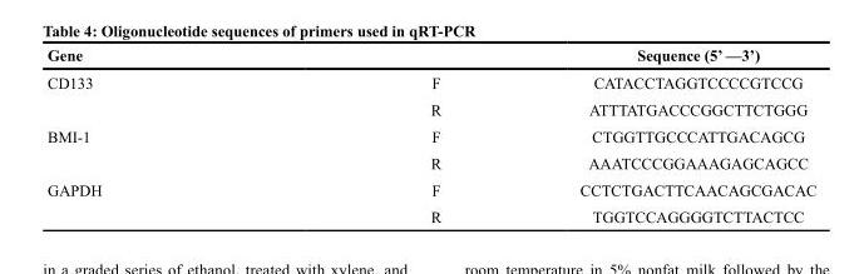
<table><thead><tr><td>Gene</td><td></td><td>Sequence (5’ —3’)</td></tr></thead><tbody><tr><td rowspan="2">CD133</td><td>F</td><td>CATACCTAGGTCCCCGTCCG</td></tr><tr><td>R</td><td>ATTTATGACCCGGCTTCTGGG</td></tr><tr><td rowspan="2">BMI-1</td><td>F</td><td>CTGGTTGCCCATTGACAGCG</td></tr><tr><td>R</td><td>AAATCCCGGAAAGAGCAGCC</td></tr><tr><td rowspan="2">GAPDH</td><td>F</td><td>CCTCTGACTTCAACAGCGACAC</td></tr><tr><td>R</td><td>TGGTCCAGGGGTCTTACTCC</td></tr></tbody></table>